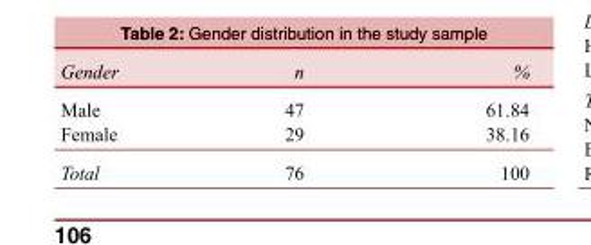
<table><tbody><tr><td>Gender</td><td>n</td><td>%</td></tr><tr><td>Male</td><td>47</td><td>61.84</td></tr><tr><td>Female</td><td>29</td><td>38.16</td></tr><tr><td>Total</td><td>76</td><td>100</td></tr></tbody></table>